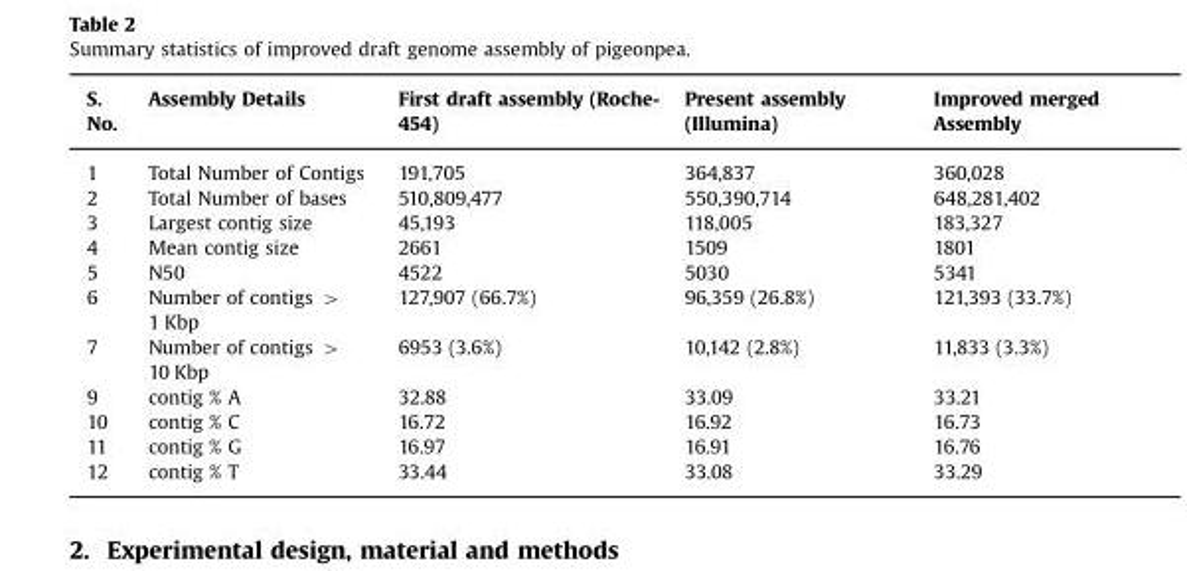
<table><thead><tr><td>S. No.</td><td>Assembly Details</td><td>First draft assembly (Roche- 454)</td><td>Present assembly (Illumina)</td><td>Improved merged Assembly</td></tr></thead><tbody><tr><td>1</td><td>Total Number of Contigs</td><td>191,705</td><td>364,837</td><td>360,028</td></tr><tr><td>2</td><td>Total Number of bases</td><td>510,809,477</td><td>550,390,714</td><td>648,281,402</td></tr><tr><td>3</td><td>Largest contig size</td><td>45,193</td><td>118,005</td><td>183,327</td></tr><tr><td>4</td><td>Mean contig size</td><td>2661</td><td>1509</td><td>1801</td></tr><tr><td>5</td><td>N50</td><td>4522</td><td>5030</td><td>5341</td></tr><tr><td>6</td><td>Number of contigs &gt; 1 Kbp</td><td>127,907 (66.7%)</td><td>96,359 (26.8%)</td><td>121,393 (33.7%)</td></tr><tr><td>7</td><td>Number of contigs &gt; 10 Kbp</td><td>6953 (3.6%)</td><td>10,142 (2.8%)</td><td>11,833 (3.3%)</td></tr><tr><td>9</td><td>contig % A</td><td>32.88</td><td>33.09</td><td>33.21</td></tr><tr><td>10</td><td>contig % C</td><td>16.72</td><td>16.92</td><td>16.73</td></tr><tr><td>11</td><td>contig % G</td><td>16.97</td><td>16.91</td><td>16.76</td></tr><tr><td>12</td><td>contig % T</td><td>33.44</td><td>33.08</td><td>33.29</td></tr></tbody></table>